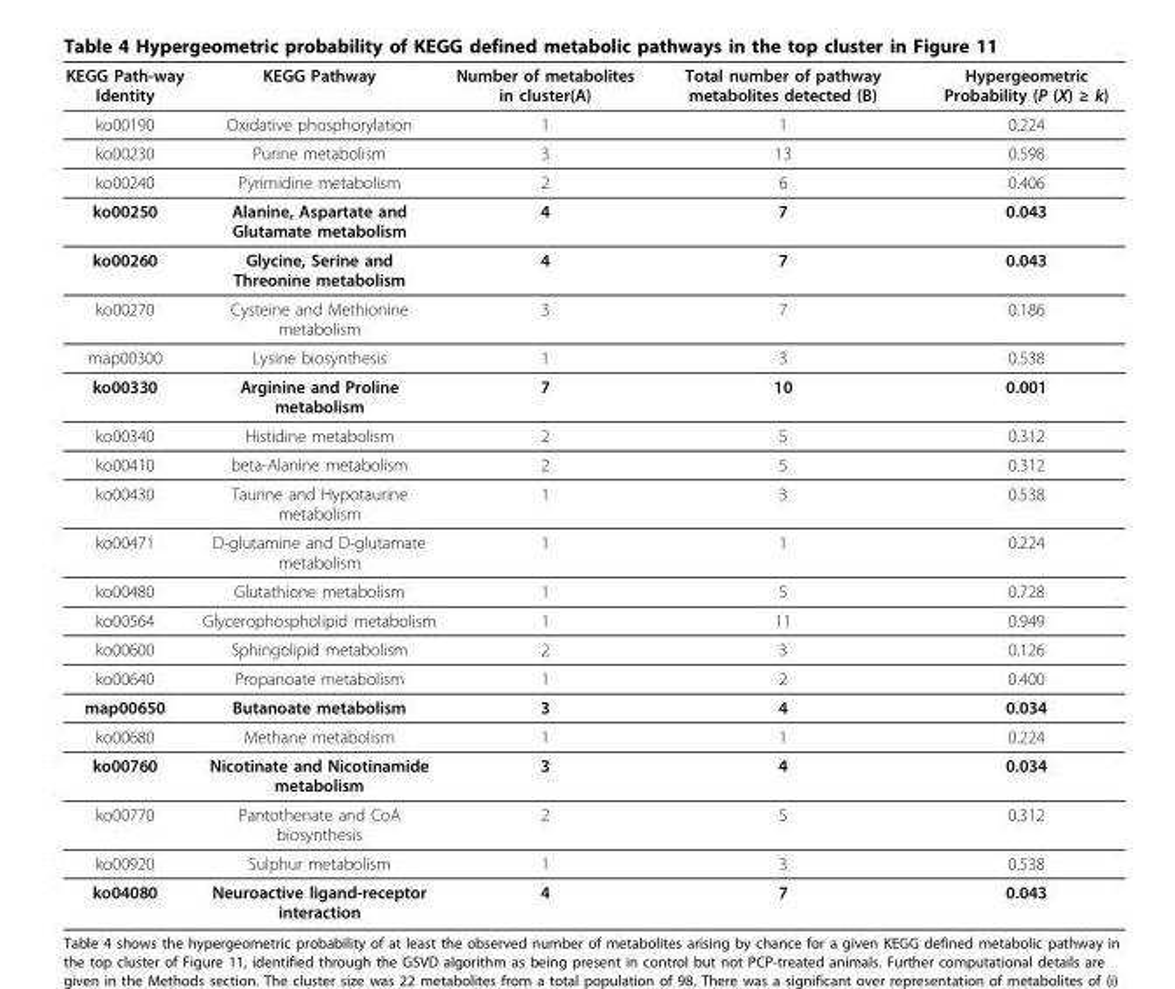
<table><thead><tr><td>KEGG Path-way Identity</td><td>KEGG Pathway</td><td>Number of metabolites in cluster(A)</td><td>Total number of pathway metabolites detected (B)</td><td>Hypergeometric Probability (P (X) ≥ k)</td></tr></thead><tbody><tr><td>ko00190</td><td>Oxidative phosphorylation</td><td>1</td><td>1</td><td>0.224</td></tr><tr><td>ko00230</td><td>Purine metabolism</td><td>3</td><td>13</td><td>0.598</td></tr><tr><td>ko00240</td><td>Pyrimidine metabolism</td><td>2</td><td>6</td><td>0.406</td></tr><tr><td>ko00250</td><td>Alanine, Aspartate and Glutamate metabolism</td><td>4</td><td>7</td><td>0.043</td></tr><tr><td>ko00260</td><td>Glycine, Serine and Threonine metabolism</td><td>4</td><td>7</td><td>0.043</td></tr><tr><td>ko00270</td><td>Cysteine and Methionine metabolism</td><td>3</td><td>7</td><td>0.186</td></tr><tr><td>map00300</td><td>Lysine biosynthesis</td><td>1</td><td>3</td><td>0.538</td></tr><tr><td>ko00330</td><td>Arginine and Proline metabolism</td><td>7</td><td>10</td><td>0.001</td></tr><tr><td>ko00340</td><td>Histidine metabolism</td><td>2</td><td>5</td><td>0.312</td></tr><tr><td>ko00410</td><td>beta-Alanine metabolism</td><td>2</td><td>5</td><td>0.312</td></tr><tr><td>ko00430</td><td>Taurine and Hypotaurine metabolism</td><td>1</td><td>3</td><td>0.538</td></tr><tr><td>ko00471</td><td>D-glutamine and D-glutamate metabolism</td><td>1</td><td>1</td><td>0.224</td></tr><tr><td>ko00480</td><td>Glutathione metabolism</td><td>1</td><td>5</td><td>0.728</td></tr><tr><td>ko00564</td><td>Glycerophospholipid metabolism</td><td>1</td><td>11</td><td>0.949</td></tr><tr><td>ko00600</td><td>Sphingolipid metabolism</td><td>2</td><td>3</td><td>0.126</td></tr><tr><td>ko00640</td><td>Propanoate metabolism</td><td>1</td><td>2</td><td>0.400</td></tr><tr><td>map00650</td><td>Butanoate metabolism</td><td>3</td><td>4</td><td>0.034</td></tr><tr><td>ko00680</td><td>Methane metabolism</td><td>1</td><td>1</td><td>0.224</td></tr><tr><td>ko00760</td><td>Nicotinate and Nicotinamide metabolism</td><td>3</td><td>4</td><td>0.034</td></tr><tr><td>ko00770</td><td>Pantothenate and CoA biosynthesis</td><td>2</td><td>5</td><td>0.312</td></tr><tr><td>ko00920</td><td>Sulphur metabolism</td><td>1</td><td>3</td><td>0.538</td></tr><tr><td>ko04080</td><td>Neuroactive ligand-receptor interaction</td><td>4</td><td>7</td><td>0.043</td></tr></tbody></table>